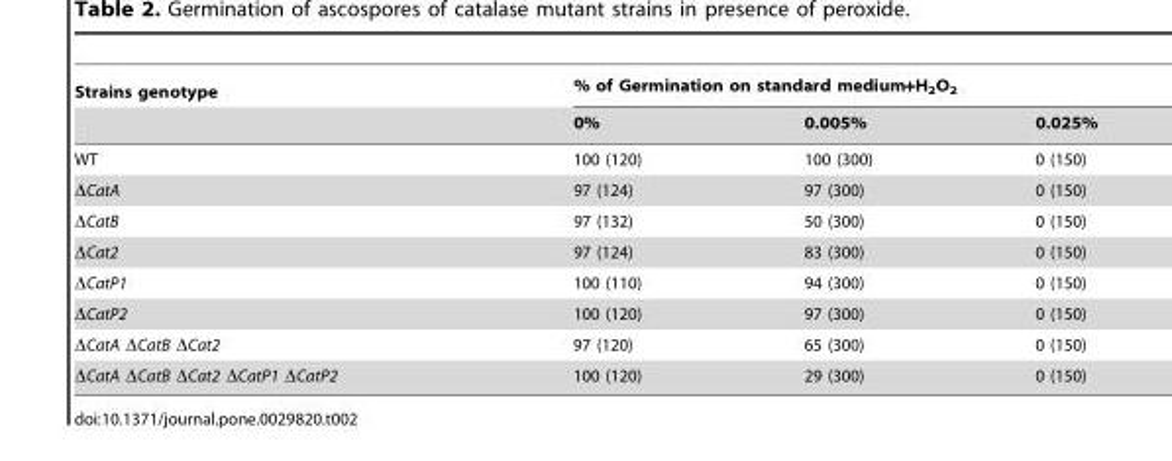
<table><thead><tr><td rowspan="2">Strains genotype</td><td colspan="3">% of Germination on standard medium+H<sub>2</sub>O<sub>2</sub></td></tr><tr><td>0%</td><td>0.005%</td><td>0.025%</td></tr></thead><tbody><tr><td>WT</td><td>100 (120)</td><td>100 (300)</td><td>0 (150)</td></tr><tr><td>ΔCatA</td><td>97 (124)</td><td>97 (300)</td><td>0 (150)</td></tr><tr><td>ΔCatB</td><td>97 (132)</td><td>50 (300)</td><td>0 (150)</td></tr><tr><td>ΔCat2</td><td>97 (124)</td><td>83 (300)</td><td>0 (150)</td></tr><tr><td>ΔCatP1</td><td>100 (110)</td><td>94 (300)</td><td>0 (150)</td></tr><tr><td>ΔCatP2</td><td>100 (120)</td><td>97 (300)</td><td>0 (150)</td></tr><tr><td>ΔCatA ΔCatB ΔCat2</td><td>97 (120)</td><td>65 (300)</td><td>0 (150)</td></tr><tr><td>ΔCatA ΔCatB ΔCat2 ΔCatP1 ΔCatP2</td><td>100 (120)</td><td>29 (300)</td><td>0 (150)</td></tr></tbody></table>